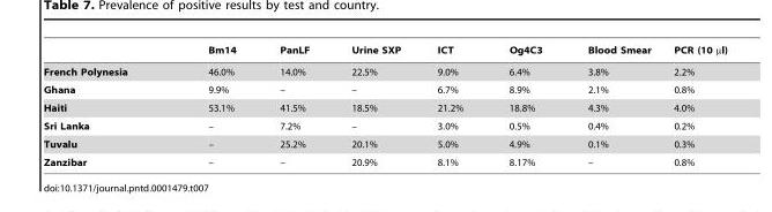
<table><thead><tr><td></td><td>Bm14</td><td>PanLF</td><td>Urine SXP</td><td>ICT</td><td>Og4C3</td><td>Blood Smear</td><td>PCR (10 µl)</td></tr></thead><tbody><tr><td>French Polynesia</td><td>46.0%</td><td>14.0%</td><td>22.5%</td><td>9.0%</td><td>6.4%</td><td>3.8%</td><td>2.2%</td></tr><tr><td>Ghana</td><td>9.9%</td><td>–</td><td>–</td><td>6.7%</td><td>8.9%</td><td>2.1%</td><td>0.8%</td></tr><tr><td>Haiti</td><td>53.1%</td><td>41.5%</td><td>18.5%</td><td>21.2%</td><td>18.8%</td><td>4.3%</td><td>4.0%</td></tr><tr><td>Sri Lanka</td><td>–</td><td>7.2%</td><td>–</td><td>3.0%</td><td>0.5%</td><td>0.4%</td><td>0.2%</td></tr><tr><td>Tuvalu</td><td>–</td><td>25.2%</td><td>20.1%</td><td>5.0%</td><td>4.9%</td><td>0.1%</td><td>0.3%</td></tr><tr><td>Zanzibar</td><td>–</td><td>–</td><td>20.9%</td><td>8.1%</td><td>8.17%</td><td>–</td><td>0.8%</td></tr></tbody></table>